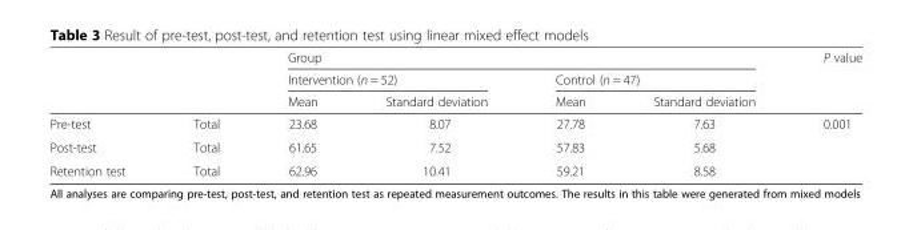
<table><thead><tr><td rowspan="3"></td><td rowspan="3"></td><td colspan="4">Group</td><td rowspan="3">P value</td></tr><tr><td colspan="2">Intervention (n = 52)</td><td colspan="2">Control (n = 47)</td></tr><tr><td>Mean</td><td>Standard deviation</td><td>Mean</td><td>Standard deviation</td></tr></thead><tbody><tr><td>Pre-test</td><td>Total</td><td>23.68</td><td>8.07</td><td>27.78</td><td>7.63</td><td rowspan="3">0.001</td></tr><tr><td>Post-test</td><td>Total</td><td>61.65</td><td>7.52</td><td>57.83</td><td>5.68</td></tr><tr><td>Retention test</td><td>Total</td><td>62.96</td><td>10.41</td><td>59.21</td><td>8.58</td></tr></tbody></table>